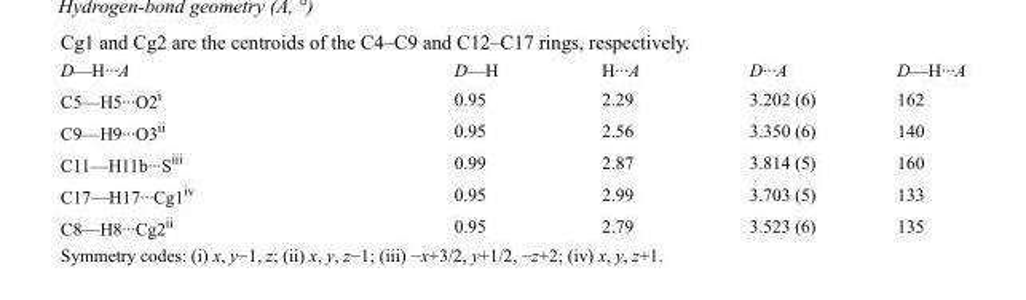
<table><tbody><tr><td>D—H···A</td><td>D—H</td><td>H···A</td><td>D···A</td><td>D—H···A</td></tr><tr><td>C5—H5···O2<sup>i</sup></td><td>0.95</td><td>2.29</td><td>3.202 (6)</td><td>162</td></tr><tr><td>C9—H9···O3<sup>ii</sup></td><td>0.95</td><td>2.56</td><td>3.350 (6)</td><td>140</td></tr><tr><td>C11—H11b···S<sup>iii</sup></td><td>0.99</td><td>2.87</td><td>3.814 (5)</td><td>160</td></tr><tr><td>C17—H17···Cg1<sup>iv</sup></td><td>0.95</td><td>2.99</td><td>3.703 (5)</td><td>133</td></tr><tr><td>C8—H8···Cg2<sup>ii</sup></td><td>0.95</td><td>2.79</td><td>3.523 (6)</td><td>135</td></tr></tbody></table>